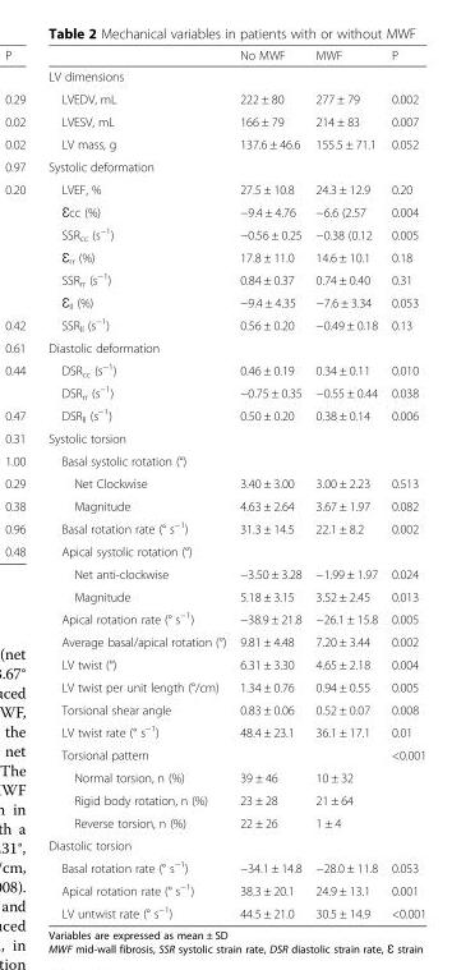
<table><thead><tr><td></td><td>No MWF</td><td>MWF</td><td>P</td></tr></thead><tbody><tr><td colspan="4">LV dimensions</td></tr><tr><td>LVEDV, mL</td><td>222 ± 80</td><td>277 ± 79</td><td>0.002</td></tr><tr><td>LVESV, mL</td><td>166 ± 79</td><td>214 ± 83</td><td>0.007</td></tr><tr><td>LV mass, g</td><td>137.6 ± 46.6</td><td>155.5 ± 71.1</td><td>0.052</td></tr><tr><td colspan="4">Systolic deformation</td></tr><tr><td>LVEF, %</td><td>27.5 ± 10.8</td><td>24.3 ± 12.9</td><td>0.20</td></tr><tr><td>Ɛcc (%)</td><td>−9.4 ± 4.76</td><td>−6.6 (2.57</td><td>0.004</td></tr><tr><td>SSR<sub>cc</sub> (s<sup>−1</sup>)</td><td>−0.56 ± 0.25</td><td>−0.38 (0.12</td><td>0.005</td></tr><tr><td>Ɛ<sub>rr</sub> (%)</td><td>17.8 ± 11.0</td><td>14.6 ± 10.1</td><td>0.18</td></tr><tr><td>SSR<sub>rr</sub> (s<sup>−1</sup>)</td><td>0.84 ± 0.37</td><td>0.74 ± 0.40</td><td>0.31</td></tr><tr><td>Ɛ<sub>ll</sub> (%)</td><td>−9.4 ± 4.35</td><td>−7.6 ± 3.34</td><td>0.053</td></tr><tr><td>SSR<sub>ll</sub> (s<sup>−1</sup>)</td><td>0.56 ± 0.20</td><td>−0.49 ± 0.18</td><td>0.13</td></tr><tr><td colspan="4">Diastolic deformation</td></tr><tr><td>DSR<sub>cc</sub> (s<sup>−1</sup>)</td><td>0.46 ± 0.19</td><td>0.34 ± 0.11</td><td>0.010</td></tr><tr><td>DSR<sub>rr</sub> (s<sup>−1</sup>)</td><td>−0.75 ± 0.35</td><td>−0.55 ± 0.44</td><td>0.038</td></tr><tr><td>DSR<sub>ll</sub> (s<sup>−1</sup>)</td><td>0.50 ± 0.20</td><td>0.38 ± 0.14</td><td>0.006</td></tr><tr><td colspan="4">Systolic torsion</td></tr><tr><td colspan="4">Basal systolic rotation (°)</td></tr><tr><td>Net Clockwise</td><td>3.40 ± 3.00</td><td>3.00 ± 2.23</td><td>0.513</td></tr><tr><td>Magnitude</td><td>4.63 ± 2.64</td><td>3.67 ± 1.97</td><td>0.082</td></tr><tr><td>Basal rotation rate (° s<sup>−1</sup>)</td><td>31.3 ± 14.5</td><td>22.1 ± 8.2</td><td>0.002</td></tr><tr><td colspan="4">Apical systolic rotation (°)</td></tr><tr><td>Net anti-clockwise</td><td>−3.50 ± 3.28</td><td>−1.99 ± 1.97</td><td>0.024</td></tr><tr><td>Magnitude</td><td>5.18 ± 3.15</td><td>3.52 ± 2.45</td><td>0.013</td></tr><tr><td>Apical rotation rate (° s<sup>−1</sup>)</td><td>−38.9 ± 21.8</td><td>−26.1 ± 15.8</td><td>0.005</td></tr><tr><td>Average basal/apical rotation (°)</td><td>9.81 ± 4.48</td><td>7.20 ± 3.44</td><td>0.002</td></tr><tr><td>LV twist (°)</td><td>6.31 ± 3.30</td><td>4.65 ± 2.18</td><td>0.004</td></tr><tr><td>LV twist per unit length (°/cm)</td><td>1.34 ± 0.76</td><td>0.94 ± 0.55</td><td>0.005</td></tr><tr><td>Torsional shear angle</td><td>0.83 ± 0.06</td><td>0.52 ± 0.07</td><td>0.008</td></tr><tr><td>LV twist rate (° s<sup>−1</sup>)</td><td>48.4 ± 23.1</td><td>36.1 ± 17.1</td><td>0.01</td></tr><tr><td>Torsional pattern</td><td></td><td></td><td>&lt;0.001</td></tr><tr><td>Normal torsion, n (%)</td><td>39 ± 46</td><td>10 ± 32</td><td></td></tr><tr><td>Rigid body rotation, n (%)</td><td>23 ± 28</td><td>21 ± 64</td><td></td></tr><tr><td>Reverse torsion, n (%)</td><td>22 ± 26</td><td>1 ± 4</td><td></td></tr><tr><td colspan="4">Diastolic torsion</td></tr><tr><td>Basal rotation rate (° s<sup>−1</sup>)</td><td>−34.1 ± 14.8</td><td>−28.0 ± 11.8</td><td>0.053</td></tr><tr><td>Apical rotation rate (° s<sup>−1</sup>)</td><td>38.3 ± 20.1</td><td>24.9 ± 13.1</td><td>0.001</td></tr><tr><td>LV untwist rate (° s<sup>−1</sup>)</td><td>44.5 ± 21.0</td><td>30.5 ± 14.9</td><td>&lt;0.001</td></tr></tbody></table>